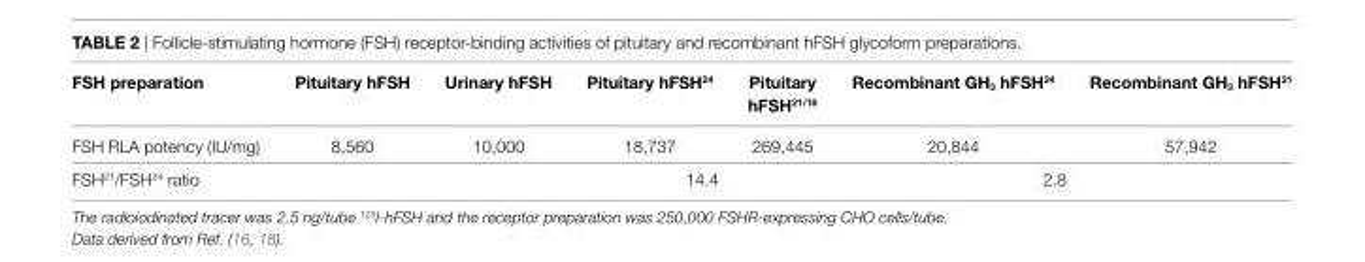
<table><thead><tr><td>FSH preparation</td><td>Pituitary hFSH</td><td>Urinary hFSH</td><td>Pituitary hFSH<sup>24</sup></td><td>Pituitary hFSH<sup>21/18</sup></td><td>Recombinant GH<sub>3</sub> hFSH<sup>24</sup></td><td>Recombinant GH<sub>3</sub> hFSH<sup>21</sup></td></tr></thead><tbody><tr><td>FSH RLA potency (IU/mg)</td><td>8,560</td><td>10,000</td><td>18,737</td><td>269,445</td><td>20,844</td><td>57,942</td></tr><tr><td>FSH<sup>21</sup>/FSH<sup>24</sup> ratio</td><td></td><td></td><td colspan="2">14.4</td><td colspan="2">2.8</td></tr></tbody></table>